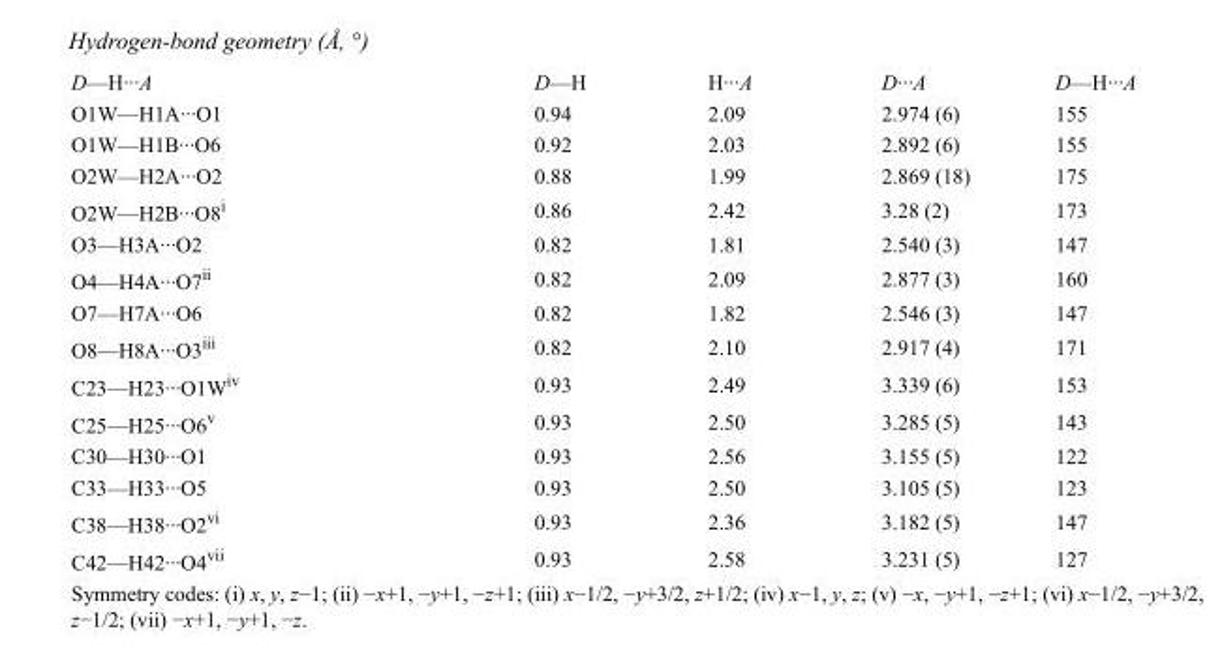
<table><tbody><tr><td>D—H···A</td><td>D—H</td><td>H···A</td><td>D···A</td><td>D—H···A</td></tr><tr><td>O1W—H1A···O1</td><td>0.94</td><td>2.09</td><td>2.974 (6)</td><td>155</td></tr><tr><td>O1W—H1B···O6</td><td>0.92</td><td>2.03</td><td>2.892 (6)</td><td>155</td></tr><tr><td>O2W—H2A···O2</td><td>0.88</td><td>1.99</td><td>2.869 (18)</td><td>175</td></tr><tr><td>O2W—H2B···O8<sup>i</sup></td><td>0.86</td><td>2.42</td><td>3.28 (2)</td><td>173</td></tr><tr><td>O3—H3A···O2</td><td>0.82</td><td>1.81</td><td>2.540 (3)</td><td>147</td></tr><tr><td>O4—H4A···O7<sup>ii</sup></td><td>0.82</td><td>2.09</td><td>2.877 (3)</td><td>160</td></tr><tr><td>O7—H7A···O6</td><td>0.82</td><td>1.82</td><td>2.546 (3)</td><td>147</td></tr><tr><td>O8—H8A···O3<sup>iii</sup></td><td>0.82</td><td>2.10</td><td>2.917 (4)</td><td>171</td></tr><tr><td>C23—H23···O1W<sup>iv</sup></td><td>0.93</td><td>2.49</td><td>3.339 (6)</td><td>153</td></tr><tr><td>C25—H25···O6<sup>v</sup></td><td>0.93</td><td>2.50</td><td>3.285 (5)</td><td>143</td></tr><tr><td>C30—H30···O1</td><td>0.93</td><td>2.56</td><td>3.155 (5)</td><td>122</td></tr><tr><td>C33—H33···O5</td><td>0.93</td><td>2.50</td><td>3.105 (5)</td><td>123</td></tr><tr><td>C38—H38···O2<sup>vi</sup></td><td>0.93</td><td>2.36</td><td>3.182 (5)</td><td>147</td></tr><tr><td>C42—H42···O4<sup>vii</sup></td><td>0.93</td><td>2.58</td><td>3.231 (5)</td><td>127</td></tr></tbody></table>